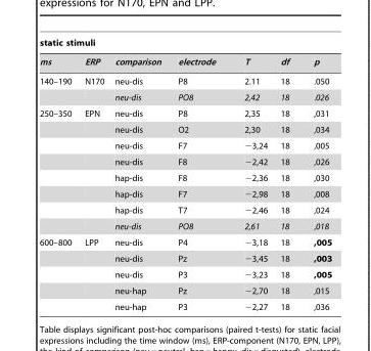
<table><thead><tr><td colspan="7">static stimuli</td></tr><tr><td>ms</td><td>ERP</td><td>comparison</td><td>electrode</td><td>T</td><td>df</td><td>p</td></tr></thead><tbody><tr><td rowspan="2">140–190</td><td>N170</td><td>neu-dis</td><td>P8</td><td>2.11</td><td>18</td><td>.050</td></tr><tr><td></td><td>neu-dis</td><td>PO8</td><td>2,42</td><td>18</td><td>.026</td></tr><tr><td rowspan="8">250–350</td><td>EPN</td><td>neu-dis</td><td>P8</td><td>2,35</td><td>18</td><td>,031</td></tr><tr><td></td><td>neu-dis</td><td>O2</td><td>2,30</td><td>18</td><td>,034</td></tr><tr><td></td><td>neu-dis</td><td>F7</td><td>−3,24</td><td>18</td><td>,005</td></tr><tr><td></td><td>neu-dis</td><td>F8</td><td>−2,42</td><td>18</td><td>,026</td></tr><tr><td></td><td>hap-dis</td><td>F8</td><td>−2,36</td><td>18</td><td>,030</td></tr><tr><td></td><td>hap-dis</td><td>F7</td><td>−2,98</td><td>18</td><td>,008</td></tr><tr><td></td><td>hap-dis</td><td>T7</td><td>−2,46</td><td>18</td><td>,024</td></tr><tr><td></td><td>neu-dis</td><td>PO8</td><td>2,61</td><td>18</td><td>,018</td></tr><tr><td rowspan="5">600–800</td><td>LPP</td><td>neu-dis</td><td>P4</td><td>−3,18</td><td>18</td><td>,005</td></tr><tr><td></td><td>neu-dis</td><td>Pz</td><td>−3,45</td><td>18</td><td>,003</td></tr><tr><td></td><td>neu-dis</td><td>P3</td><td>−3,23</td><td>18</td><td>,005</td></tr><tr><td></td><td>neu-hap</td><td>Pz</td><td>−2,70</td><td>18</td><td>,015</td></tr><tr><td></td><td>neu-hap</td><td>P3</td><td>−2,27</td><td>18</td><td>,036</td></tr></tbody></table>